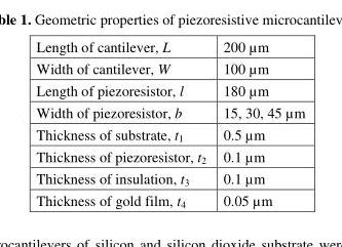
<table><tbody><tr><td>Length of cantilever, L</td><td>200 µm</td></tr><tr><td>Width of cantilever, W</td><td>100 µm</td></tr><tr><td>Length of piezoresistor, l</td><td>180 µm</td></tr><tr><td>Width of piezoresistor, b</td><td>15, 30, 45 µm</td></tr><tr><td>Thickness of substrate, t<sub>1</sub></td><td>0.5 µm</td></tr><tr><td>Thickness of piezoresistor, t<sub>2</sub></td><td>0.1 µm</td></tr><tr><td>Thickness of insulation, t<sub>3</sub></td><td>0.1 µm</td></tr><tr><td>Thickness of gold film, t<sub>4</sub></td><td>0.05 µm</td></tr></tbody></table>